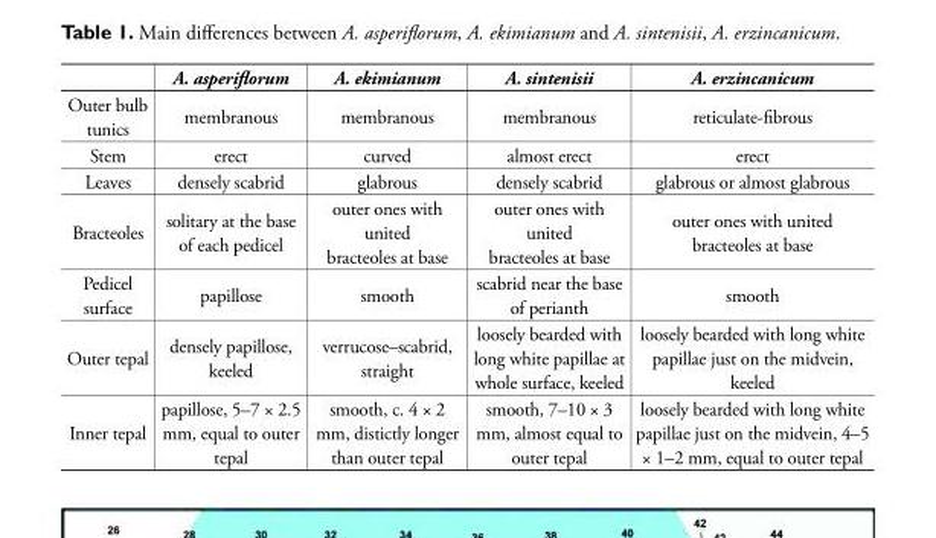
<table><thead><tr><td></td><td>A. asperifl orum</td><td>A. ekimianum</td><td>A. sintenisii</td><td>A. erzincanicum</td></tr></thead><tbody><tr><td>Outer bulb tunics</td><td>membranous</td><td>membranous</td><td>membranous</td><td>reticulate-fi brous</td></tr><tr><td>Stem</td><td>erect</td><td>curved</td><td>almost erect</td><td>erect</td></tr><tr><td>Leaves</td><td>densely scabrid</td><td>glabrous</td><td>densely scabrid</td><td>glabrous or almost glabrous</td></tr><tr><td>Bracteoles</td><td>solitary at the base of each pedicel</td><td>outer ones with united bracteoles at base</td><td>outer ones with united bracteoles at base</td><td>outer ones with united bracteoles at base</td></tr><tr><td>Pedicel surface</td><td>papillose</td><td>smooth</td><td>scabrid near the base of perianth</td><td>smooth</td></tr><tr><td>Outer tepal</td><td>densely papillose, keeled</td><td>verrucose–scabrid, straight</td><td>loosely bearded with long white papillae at whole surface, keeled</td><td>loosely bearded with long white papillae just on the midvein, keeled</td></tr><tr><td>Inner tepal</td><td>papillose, 5–7 × 2.5 mm, equal to outer tepal</td><td>smooth, c. 4 × 2 mm, distictly longer than outer tepal</td><td>smooth, 7–10 × 3 mm, almost equal to outer tepal</td><td>loosely bearded with long white papillae just on the midvein, 4–5 × 1–2 mm, equal to outer tepal</td></tr></tbody></table>